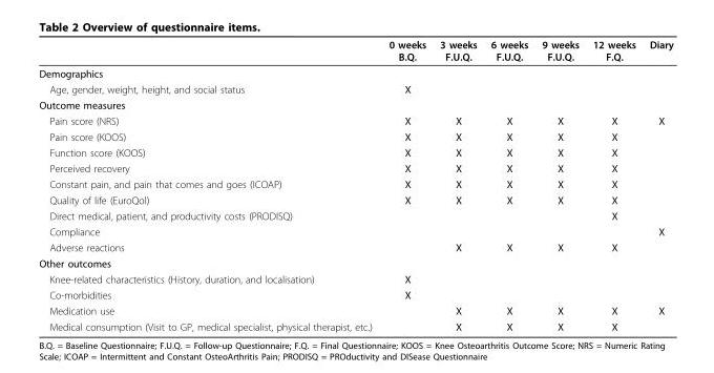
<table><thead><tr><td></td><td>0 weeks B.Q.</td><td>3 weeks F.U.Q.</td><td>6 weeks F.U.Q.</td><td>9 weeks F.U.Q.</td><td>12 weeks F.Q.</td><td>Diary</td></tr></thead><tbody><tr><td colspan="7">Demographics</td></tr><tr><td>Age, gender, weight, height, and social status</td><td>X</td><td></td><td></td><td></td><td></td><td></td></tr><tr><td colspan="7">Outcome measures</td></tr><tr><td>Pain score (NRS)</td><td>X</td><td>X</td><td>X</td><td>X</td><td>X</td><td>X</td></tr><tr><td>Pain score (KOOS)</td><td>X</td><td>X</td><td>X</td><td>X</td><td>X</td><td></td></tr><tr><td>Function score (KOOS)</td><td>X</td><td>X</td><td>X</td><td>X</td><td>X</td><td></td></tr><tr><td>Perceived recovery</td><td>X</td><td>X</td><td>X</td><td>X</td><td>X</td><td></td></tr><tr><td>Constant pain, and pain that comes and goes (ICOAP)</td><td>X</td><td>X</td><td>X</td><td>X</td><td>X</td><td></td></tr><tr><td>Quality of life (EuroQol)</td><td>X</td><td>X</td><td>X</td><td>X</td><td>X</td><td></td></tr><tr><td>Direct medical, patient, and productivity costs (PRODISQ)</td><td></td><td></td><td></td><td></td><td>X</td><td></td></tr><tr><td>Compliance</td><td></td><td></td><td></td><td></td><td></td><td>X</td></tr><tr><td>Adverse reactions</td><td></td><td>X</td><td>X</td><td>X</td><td>X</td><td></td></tr><tr><td colspan="7">Other outcomes</td></tr><tr><td>Knee-related characteristics (History, duration, and localisation)</td><td>X</td><td></td><td></td><td></td><td></td><td></td></tr><tr><td>Co-morbidities</td><td>X</td><td></td><td></td><td></td><td></td><td></td></tr><tr><td>Medication use</td><td></td><td>X</td><td>X</td><td>X</td><td>X</td><td>X</td></tr><tr><td>Medical consumption (Visit to GP, medical specialist, physical therapist, etc.)</td><td></td><td>X</td><td>X</td><td>X</td><td>X</td><td></td></tr></tbody></table>